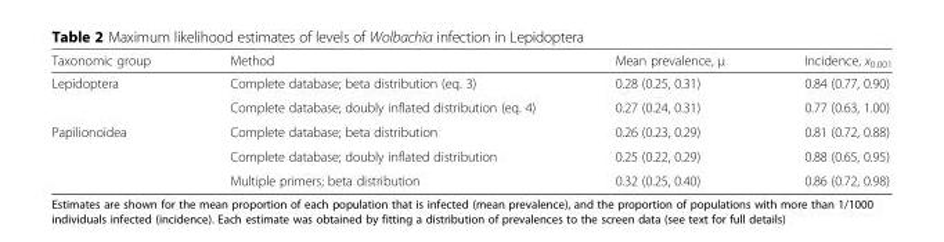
<table><thead><tr><td>Taxonomic group</td><td>Method</td><td>Mean prevalence, μ</td><td>Incidence, x<sub>0.001</sub></td></tr></thead><tbody><tr><td rowspan="2">Lepidoptera</td><td>Complete database; beta distribution (eq. 3)</td><td>0.28 (0.25, 0.31)</td><td>0.84 (0.77, 0.90)</td></tr><tr><td>Complete database; doubly inflated distribution (eq. 4)</td><td>0.27 (0.24, 0.31)</td><td>0.77 (0.63, 1.00)</td></tr><tr><td rowspan="3">Papilionoidea</td><td>Complete database; beta distribution</td><td>0.26 (0.23, 0.29)</td><td>0.81 (0.72, 0.88)</td></tr><tr><td>Complete database; doubly inflated distribution</td><td>0.25 (0.22, 0.29)</td><td>0.88 (0.65, 0.95)</td></tr><tr><td>Multiple primers; beta distribution</td><td>0.32 (0.25, 0.40)</td><td>0.86 (0.72, 0.98)</td></tr></tbody></table>